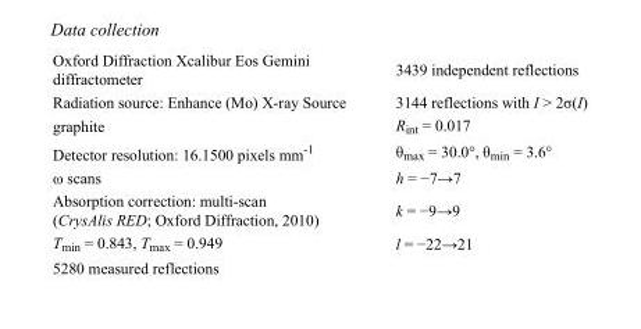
<table><tbody><tr><td>Oxford Diffraction Xcalibur Eos Gemini diffractometer</td><td>3439 independent reflections</td></tr><tr><td>Radiation source: Enhance (Mo) X-ray Source</td><td>3144 reflections with I &gt; 2σ(I)</td></tr><tr><td>graphite</td><td>R<sub>int</sub> = 0.017</td></tr><tr><td>Detector resolution: 16.1500 pixels mm<sup>-1</sup></td><td>θ<sub>max</sub> = 30.0°, θ<sub>min</sub> = 3.6°</td></tr><tr><td>ω scans</td><td>h = −7→7</td></tr><tr><td>Absorption correction: multi-scan (CrysAlis RED; Oxford Diffraction, 2010)</td><td>k = −9→9</td></tr><tr><td>T<sub>min</sub> = 0.843, T<sub>max</sub> = 0.949</td><td>l = −22→21</td></tr><tr><td>5280 measured reflections</td><td></td></tr></tbody></table>